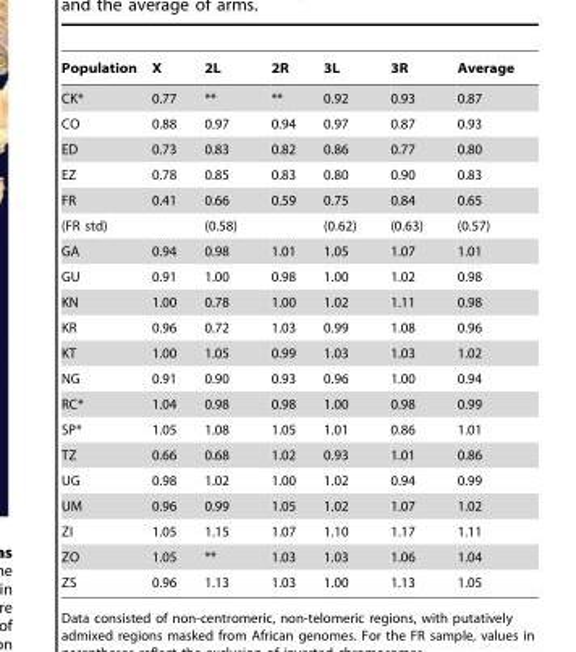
<table><thead><tr><td>Population</td><td>X</td><td>2L</td><td>2R</td><td>3L</td><td>3R</td><td>Average</td></tr></thead><tbody><tr><td>CK*</td><td>0.77</td><td>**</td><td>**</td><td>0.92</td><td>0.93</td><td>0.87</td></tr><tr><td>CO</td><td>0.88</td><td>0.97</td><td>0.94</td><td>0.97</td><td>0.87</td><td>0.93</td></tr><tr><td>ED</td><td>0.73</td><td>0.83</td><td>0.82</td><td>0.86</td><td>0.77</td><td>0.80</td></tr><tr><td>EZ</td><td>0.78</td><td>0.85</td><td>0.83</td><td>0.80</td><td>0.90</td><td>0.83</td></tr><tr><td>FR</td><td>0.41</td><td>0.66</td><td>0.59</td><td>0.75</td><td>0.84</td><td>0.65</td></tr><tr><td>(FR std)</td><td></td><td>(0.58)</td><td></td><td>(0.62)</td><td>(0.63)</td><td>(0.57)</td></tr><tr><td>GA</td><td>0.94</td><td>0.98</td><td>1.01</td><td>1.05</td><td>1.07</td><td>1.01</td></tr><tr><td>GU</td><td>0.91</td><td>1.00</td><td>0.98</td><td>1.00</td><td>1.02</td><td>0.98</td></tr><tr><td>KN</td><td>1.00</td><td>0.78</td><td>1.00</td><td>1.02</td><td>1.11</td><td>0.98</td></tr><tr><td>KR</td><td>0.96</td><td>0.72</td><td>1.03</td><td>0.99</td><td>1.08</td><td>0.96</td></tr><tr><td>KT</td><td>1.00</td><td>1.05</td><td>0.99</td><td>1.03</td><td>1.03</td><td>1.02</td></tr><tr><td>NG</td><td>0.91</td><td>0.90</td><td>0.93</td><td>0.96</td><td>1.00</td><td>0.94</td></tr><tr><td>RC*</td><td>1.04</td><td>0.98</td><td>0.98</td><td>1.00</td><td>0.98</td><td>0.99</td></tr><tr><td>SP*</td><td>1.05</td><td>1.08</td><td>1.05</td><td>1.01</td><td>0.86</td><td>1.01</td></tr><tr><td>TZ</td><td>0.66</td><td>0.68</td><td>1.02</td><td>0.93</td><td>1.01</td><td>0.86</td></tr><tr><td>UG</td><td>0.98</td><td>1.02</td><td>1.00</td><td>1.02</td><td>0.94</td><td>0.99</td></tr><tr><td>UM</td><td>0.96</td><td>0.99</td><td>1.05</td><td>1.02</td><td>1.07</td><td>1.02</td></tr><tr><td>ZI</td><td>1.05</td><td>1.15</td><td>1.07</td><td>1.10</td><td>1.17</td><td>1.11</td></tr><tr><td>ZO</td><td>1.05</td><td>**</td><td>1.03</td><td>1.03</td><td>1.06</td><td>1.04</td></tr><tr><td>ZS</td><td>0.96</td><td>1.13</td><td>1.03</td><td>1.00</td><td>1.13</td><td>1.05</td></tr></tbody></table>